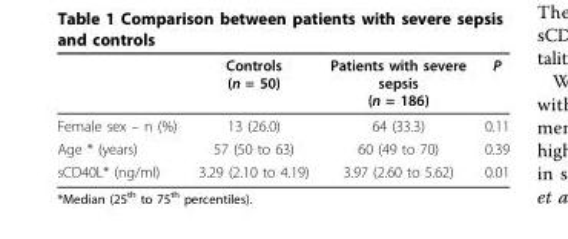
<table><thead><tr><td></td><td>Controls (n = 50)</td><td>Patients with severe sepsis (n = 186)</td><td>P</td></tr></thead><tbody><tr><td>Female sex – n (%)</td><td>13 (26.0)</td><td>64 (33.3)</td><td>0.11</td></tr><tr><td>Age * (years)</td><td>57 (50 to 63)</td><td>60 (49 to 70)</td><td>0.39</td></tr><tr><td>sCD40L* (ng/ml)</td><td>3.29 (2.10 to 4.19)</td><td>3.97 (2.60 to 5.62)</td><td>0.01</td></tr></tbody></table>